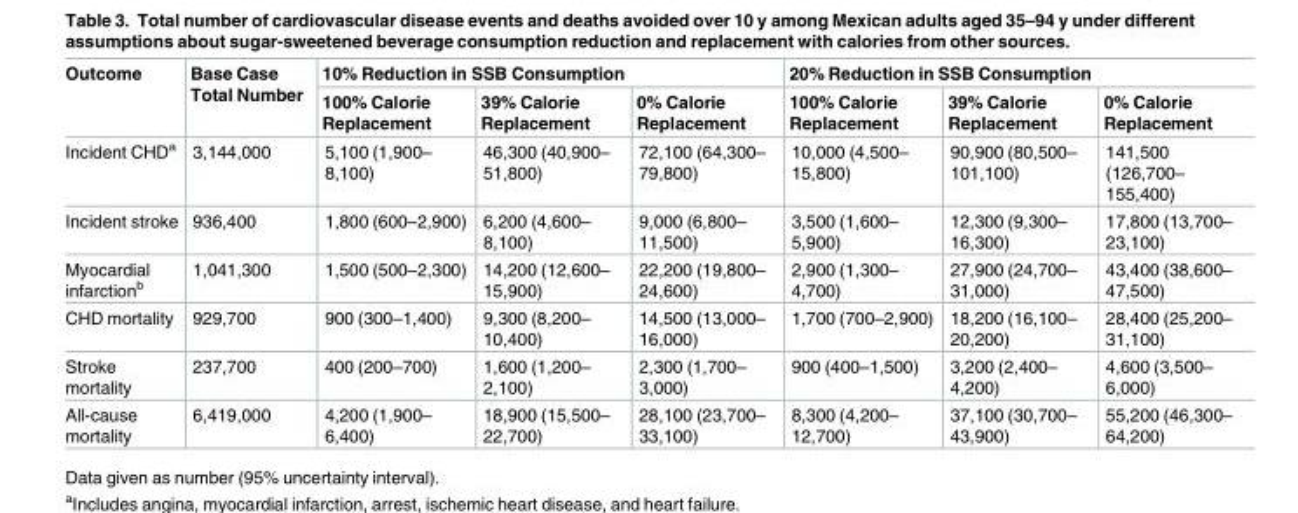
<table><thead><tr><td rowspan="2">Outcome</td><td rowspan="2">Base Case Total Number</td><td colspan="3">10% Reduction in SSB Consumption</td><td colspan="3">20% Reduction in SSB Consumption</td></tr><tr><td>100% Calorie Replacement</td><td>39% Calorie Replacement</td><td>0% Calorie Replacement</td><td>100% Calorie Replacement</td><td>39% Calorie Replacement</td><td>0% Calorie Replacement</td></tr></thead><tbody><tr><td>Incident CHD<sup>a</sup></td><td>3,144,000</td><td>5,100 (1,900– 8,100)</td><td>46,300 (40,900– 51,800)</td><td>72,100 (64,300– 79,800)</td><td>10,000 (4,500– 15,800)</td><td>90,900 (80,500– 101,100)</td><td>141,500 (126,700– 155,400)</td></tr><tr><td>Incident stroke</td><td>936,400</td><td>1,800 (600–2,900)</td><td>6,200 (4,600– 8,100)</td><td>9,000 (6,800– 11,500)</td><td>3,500 (1,600– 5,900)</td><td>12,300 (9,300– 16,300)</td><td>17,800 (13,700– 23,100)</td></tr><tr><td>Myocardial infarction<sup>b</sup></td><td>1,041,300</td><td>1,500 (500–2,300)</td><td>14,200 (12,600– 15,900)</td><td>22,200 (19,800– 24,600)</td><td>2,900 (1,300– 4,700)</td><td>27,900 (24,700– 31,000)</td><td>43,400 (38,600– 47,500)</td></tr><tr><td>CHD mortality</td><td>929,700</td><td>900 (300–1,400)</td><td>9,300 (8,200– 10,400)</td><td>14,500 (13,000– 16,000)</td><td>1,700 (700–2,900)</td><td>18,200 (16,100– 20,200)</td><td>28,400 (25,200– 31,100)</td></tr><tr><td>Stroke mortality</td><td>237,700</td><td>400 (200–700)</td><td>1,600 (1,200– 2,100)</td><td>2,300 (1,700– 3,000)</td><td>900 (400–1,500)</td><td>3,200 (2,400– 4,200)</td><td>4,600 (3,500– 6,000)</td></tr><tr><td>All-cause mortality</td><td>6,419,000</td><td>4,200 (1,900– 6,400)</td><td>18,900 (15,500– 22,700)</td><td>28,100 (23,700– 33,100)</td><td>8,300 (4,200– 12,700)</td><td>37,100 (30,700– 43,900)</td><td>55,200 (46,300– 64,200)</td></tr></tbody></table>